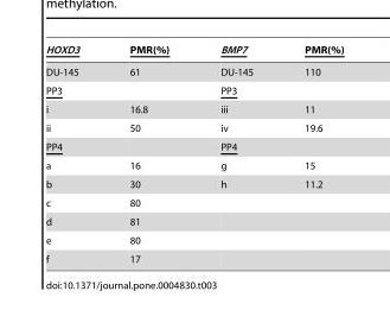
<table><thead><tr><td>HOXD3</td><td>PMR(%)</td><td>BMP7</td><td>PMR(%)</td></tr></thead><tbody><tr><td>DU-145</td><td>61</td><td>DU-145</td><td>110</td></tr><tr><td>PP3</td><td></td><td>PP3</td><td></td></tr><tr><td>i</td><td>16.8</td><td>iii</td><td>11</td></tr><tr><td>ii</td><td>50</td><td>iv</td><td>19.6</td></tr><tr><td>PP4</td><td></td><td>PP4</td><td></td></tr><tr><td>a</td><td>16</td><td>g</td><td>15</td></tr><tr><td>b</td><td>30</td><td>h</td><td>11.2</td></tr><tr><td>c</td><td>80</td><td></td><td></td></tr><tr><td>d</td><td>81</td><td></td><td></td></tr><tr><td>e</td><td>80</td><td></td><td></td></tr><tr><td>f</td><td>17</td><td></td><td></td></tr></tbody></table>